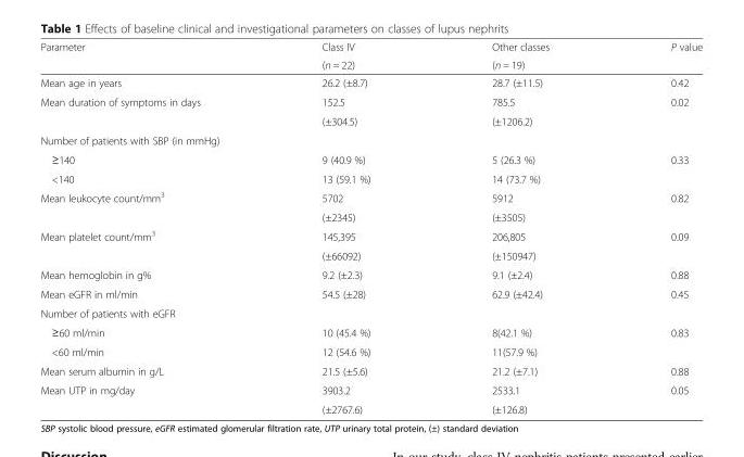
<table><thead><tr><td rowspan="2">Parameter</td><td rowspan="2">Class IV (n = 22)</td><td rowspan="2">Other classes (n = 19)</td><td rowspan="2">P value</td></tr><tr></tr></thead><tbody><tr><td>Mean age in years</td><td>26.2 (±8.7)</td><td>28.7 (±11.5)</td><td>0.42</td></tr><tr><td rowspan="2">Mean duration of symptoms in days</td><td>152.5</td><td>785.5</td><td>0.02</td></tr><tr><td>(±304.5)</td><td>(±1206.2)</td><td></td></tr><tr><td colspan="4">Number of patients with SBP (in mmHg)</td></tr><tr><td>≥140</td><td>9 (40.9 %)</td><td>5 (26.3 %)</td><td>0.33</td></tr><tr><td>&lt;140</td><td>13 (59.1 %)</td><td>14 (73.7 %)</td><td></td></tr><tr><td rowspan="2">Mean leukocyte count/mm<sup>3</sup></td><td>5702</td><td>5912</td><td>0.82</td></tr><tr><td>(±2345)</td><td>(±3505)</td><td></td></tr><tr><td rowspan="2">Mean platelet count/mm<sup>3</sup></td><td>145,395</td><td>206,805</td><td>0.09</td></tr><tr><td>(±66092)</td><td>(±150947)</td><td></td></tr><tr><td>Mean hemoglobin in g%</td><td>9.2 (±2.3)</td><td>9.1 (±2.4)</td><td>0.88</td></tr><tr><td>Mean eGFR in ml/min</td><td>54.5 (±28)</td><td>62.9 (±42.4)</td><td>0.45</td></tr><tr><td colspan="4">Number of patients with eGFR</td></tr><tr><td>≥60 ml/min</td><td>10 (45.4 %)</td><td>8(42.1 %)</td><td>0.83</td></tr><tr><td>&lt;60 ml/min</td><td>12 (54.6 %)</td><td>11(57.9 %)</td><td></td></tr><tr><td>Mean serum albumin in g/L</td><td>21.5 (±5.6)</td><td>21.2 (±7.1)</td><td>0.88</td></tr><tr><td rowspan="2">Mean UTP in mg/day</td><td>3903.2</td><td>2533.1</td><td>0.05</td></tr><tr><td>(±2767.6)</td><td>(±126.8)</td><td></td></tr></tbody></table>